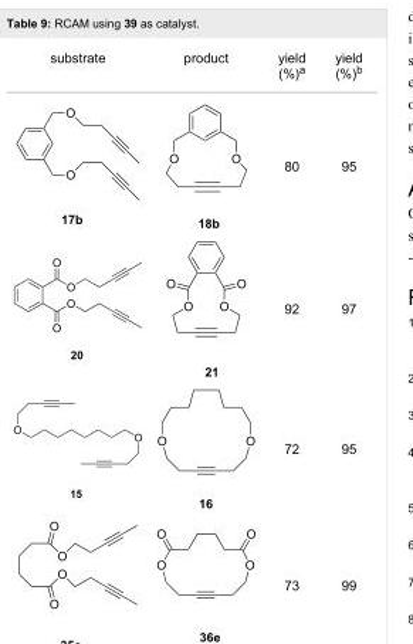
<table><tbody><tr><td rowspan="5">substrate</td><td>product</td><td>yield (%)<sup>a</sup></td><td>yield (%)<sup>b</sup></td></tr><tr><td></td><td>80</td><td>95</td></tr><tr><td></td><td>92</td><td>97</td></tr><tr><td></td><td>72</td><td>95</td></tr><tr><td></td><td>73</td><td>99</td></tr></tbody></table>